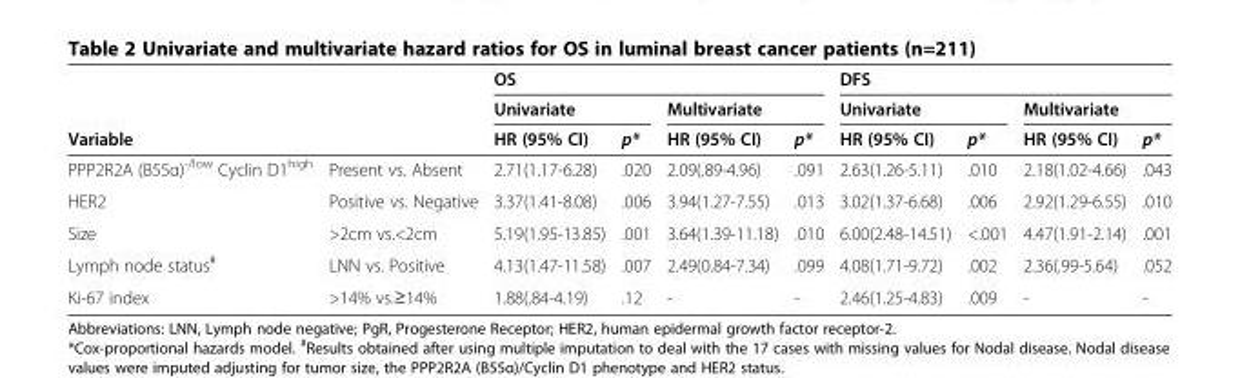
<table><thead><tr><td rowspan="2"></td><td rowspan="2"></td><td colspan="4">OS</td><td colspan="4">DFS</td></tr><tr><td colspan="2">Univariate</td><td colspan="2">Multivariate</td><td colspan="2">Univariate</td><td colspan="2">Multivariate</td></tr><tr><td colspan="2">Variable</td><td>HR (95% CI)</td><td>p*</td><td>HR (95% CI)</td><td>p*</td><td>HR (95% CI)</td><td>p*</td><td>HR (95% CI)</td><td>p*</td></tr></thead><tbody><tr><td>PPP2R2A (B55α)<sup>-/low</sup> Cyclin D1<sup>high</sup></td><td>Present vs. Absent</td><td>2.71(1.17-6.28)</td><td>.020</td><td>2.09(.89-4.96)</td><td>.091</td><td>2.63(1.26-5.11)</td><td>.010</td><td>2.18(1.02-4.66)</td><td>.043</td></tr><tr><td>HER2</td><td>Positive vs. Negative</td><td>3.37(1.41-8.08)</td><td>.006</td><td>3.94(1.27-7.55)</td><td>.013</td><td>3.02(1.37-6.68)</td><td>.006</td><td>2.92(1.29-6.55)</td><td>.010</td></tr><tr><td>Size</td><td>&gt;2cm vs.&lt;2cm</td><td>5.19(1.95-13.85)</td><td>.001</td><td>3.64(1.39-11.18)</td><td>.010</td><td>6.00(2.48-14.51)</td><td>&lt;.001</td><td>4.47(1.91-2.14)</td><td>.001</td></tr><tr><td>Lymph node status<sup>#</sup></td><td>LNN vs. Positive</td><td>4.13(1.47-11.58)</td><td>.007</td><td>2.49(0.84-7.34)</td><td>.099</td><td>4.08(1.71-9.72)</td><td>.002</td><td>2.36(.99-5.64)</td><td>.052</td></tr><tr><td>Ki-67 index</td><td>&gt;14% vs.≥14%</td><td>1.88(.84-4.19)</td><td>.12</td><td>-</td><td>-</td><td>2.46(1.25-4.83)</td><td>.009</td><td>-</td><td>-</td></tr></tbody></table>